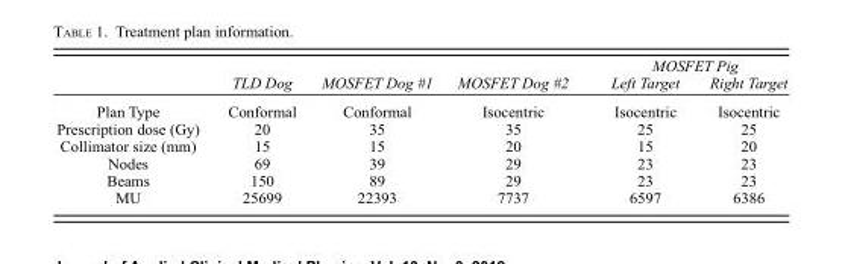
<table><thead><tr><td rowspan="2"></td><td rowspan="2">TLD Dog</td><td rowspan="2">MOSFET Dog #1</td><td rowspan="2">MOSFET Dog #2</td><td colspan="2">MOSFET Pig</td></tr><tr><td>Left Target</td><td>Right Target</td></tr></thead><tbody><tr><td>Plan Type</td><td>Conformal</td><td>Conformal</td><td>Isocentric</td><td>Isocentric</td><td>Isocentric</td></tr><tr><td>Prescription dose (Gy)</td><td>20</td><td>35</td><td>35</td><td>25</td><td>25</td></tr><tr><td>Collimator size (mm)</td><td>15</td><td>15</td><td>20</td><td>15</td><td>20</td></tr><tr><td>Nodes</td><td>69</td><td>39</td><td>29</td><td>23</td><td>23</td></tr><tr><td>Beams</td><td>150</td><td>89</td><td>29</td><td>23</td><td>23</td></tr><tr><td>MU</td><td>25699</td><td>22393</td><td>7737</td><td>6597</td><td>6386</td></tr></tbody></table>